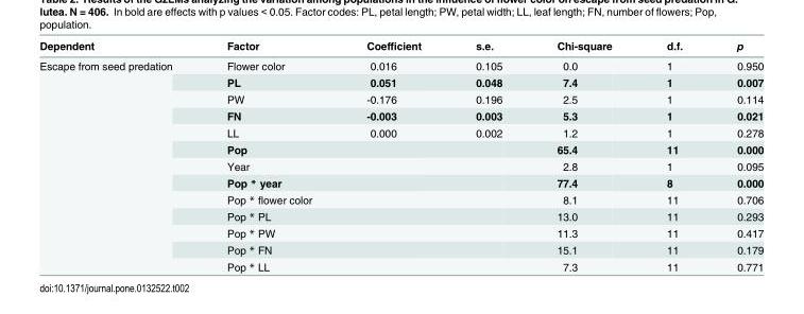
<table><thead><tr><td>Dependent</td><td>Factor</td><td>Coefficient</td><td>s.e.</td><td>Chi-square</td><td>d.f.</td><td>p</td></tr></thead><tbody><tr><td rowspan="13">Escape from seed predation</td><td>Flower color</td><td>0.016</td><td>0.105</td><td>0.0</td><td>1</td><td>0.950</td></tr><tr><td>PL</td><td>0.051</td><td>0.048</td><td>7.4</td><td>1</td><td>0.007</td></tr><tr><td>PW</td><td>-0.176</td><td>0.196</td><td>2.5</td><td>1</td><td>0.114</td></tr><tr><td>FN</td><td>-0.003</td><td>0.003</td><td>5.3</td><td>1</td><td>0.021</td></tr><tr><td>LL</td><td>0.000</td><td>0.002</td><td>1.2</td><td>1</td><td>0.278</td></tr><tr><td>Pop</td><td></td><td></td><td>65.4</td><td>11</td><td>0.000</td></tr><tr><td>Year</td><td></td><td></td><td>2.8</td><td>1</td><td>0.095</td></tr><tr><td>Pop * year</td><td></td><td></td><td>77.4</td><td>8</td><td>0.000</td></tr><tr><td>Pop * flower color</td><td></td><td></td><td>8.1</td><td>11</td><td>0.706</td></tr><tr><td>Pop * PL</td><td></td><td></td><td>13.0</td><td>11</td><td>0.293</td></tr><tr><td>Pop * PW</td><td></td><td></td><td>11.3</td><td>11</td><td>0.417</td></tr><tr><td>Pop * FN</td><td></td><td></td><td>15.1</td><td>11</td><td>0.179</td></tr><tr><td>Pop * LL</td><td></td><td></td><td>7.3</td><td>11</td><td>0.771</td></tr></tbody></table>